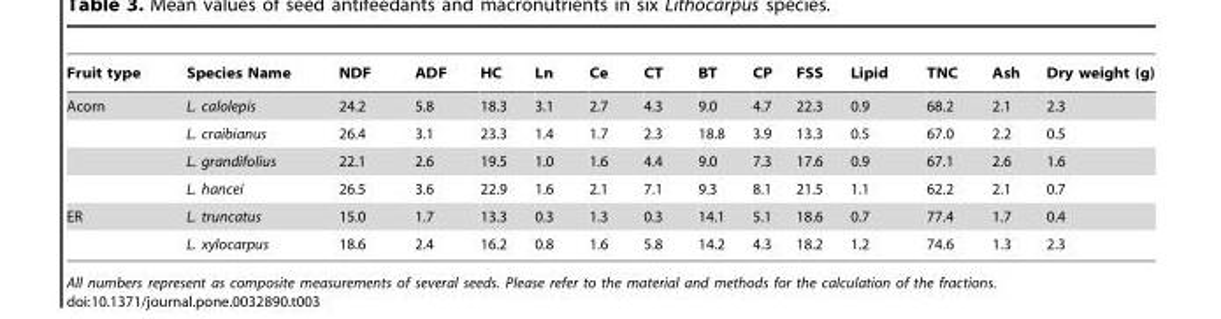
<table><thead><tr><td>Fruit type</td><td>Species Name</td><td>NDF</td><td>ADF</td><td>HC</td><td>Ln</td><td>Ce</td><td>CT</td><td>BT</td><td>CP</td><td>FSS</td><td>Lipid</td><td>TNC</td><td>Ash</td><td>Dry weight (g)</td></tr></thead><tbody><tr><td rowspan="4">Acorn</td><td>L. calolepis</td><td>24.2</td><td>5.8</td><td>18.3</td><td>3.1</td><td>2.7</td><td>4.3</td><td>9.0</td><td>4.7</td><td>22.3</td><td>0.9</td><td>68.2</td><td>2.1</td><td>2.3</td></tr><tr><td>L. craibianus</td><td>26.4</td><td>3.1</td><td>23.3</td><td>1.4</td><td>1.7</td><td>2.3</td><td>18.8</td><td>3.9</td><td>13.3</td><td>0.5</td><td>67.0</td><td>2.2</td><td>0.5</td></tr><tr><td>L. grandifolius</td><td>22.1</td><td>2.6</td><td>19.5</td><td>1.0</td><td>1.6</td><td>4.4</td><td>9.0</td><td>7.3</td><td>17.6</td><td>0.9</td><td>67.1</td><td>2.6</td><td>1.6</td></tr><tr><td>L. hancei</td><td>26.5</td><td>3.6</td><td>22.9</td><td>1.6</td><td>2.1</td><td>7.1</td><td>9.3</td><td>8.1</td><td>21.5</td><td>1.1</td><td>62.2</td><td>2.1</td><td>0.7</td></tr><tr><td rowspan="2">ER</td><td>L. truncatus</td><td>15.0</td><td>1.7</td><td>13.3</td><td>0.3</td><td>1.3</td><td>0.3</td><td>14.1</td><td>5.1</td><td>18.6</td><td>0.7</td><td>77.4</td><td>1.7</td><td>0.4</td></tr><tr><td>L. xylocarpus</td><td>18.6</td><td>2.4</td><td>16.2</td><td>0.8</td><td>1.6</td><td>5.8</td><td>14.2</td><td>4.3</td><td>18.2</td><td>1.2</td><td>74.6</td><td>1.3</td><td>2.3</td></tr></tbody></table>